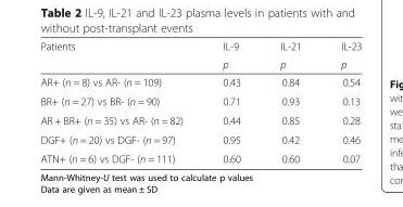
<table><thead><tr><td rowspan="2">Patients</td><td rowspan="2">IL-9 p</td><td rowspan="2">IL-21 p</td><td rowspan="2">IL-23 p</td></tr><tr></tr></thead><tbody><tr><td>AR+ (n = 8) vs AR- (n = 109)</td><td>0.43</td><td>0.84</td><td>0.54</td></tr><tr><td>BR+ (n = 27) vs BR- (n = 90)</td><td>0.71</td><td>0.93</td><td>0.13</td></tr><tr><td>AR + BR+ (n = 35) vs AR- (n = 82)</td><td>0.44</td><td>0.85</td><td>0.28</td></tr><tr><td>DGF+ (n = 20) vs DGF- (n = 97)</td><td>0.95</td><td>0.42</td><td>0.46</td></tr><tr><td>ATN+ (n = 6) vs DGF- (n = 111)</td><td>0.60</td><td>0.60</td><td>0.07</td></tr></tbody></table>